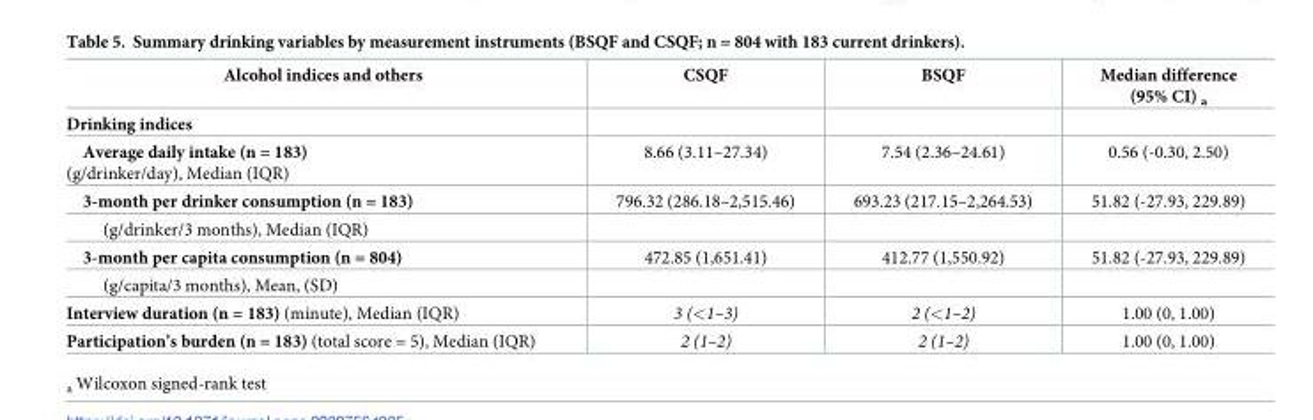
<table><thead><tr><td>Alcohol indices and others</td><td>CSQF</td><td>BSQF</td><td>Median difference (95% CI) <sub>a</sub></td></tr></thead><tbody><tr><td colspan="4">Drinking indices</td></tr><tr><td>Average daily intake (n = 183) (g/drinker/day), Median (IQR)</td><td>8.66 (3.11–27.34)</td><td>7.54 (2.36–24.61)</td><td>0.56 (-0.30, 2.50)</td></tr><tr><td>3-month per drinker consumption (n = 183)</td><td>796.32 (286.18–2,515.46)</td><td>693.23 (217.15–2,264.53)</td><td>51.82 (-27.93, 229.89)</td></tr><tr><td colspan="4">(g/drinker/3 months), Median (IQR)</td></tr><tr><td>3-month per capita consumption (n = 804)</td><td>472.85 (1,651.41)</td><td>412.77 (1,550.92)</td><td>51.82 (-27.93, 229.89)</td></tr><tr><td colspan="4">(g/capita/3 months), Mean, (SD)</td></tr><tr><td>Interview duration (n = 183) (minute), Median (IQR)</td><td>3 (&lt;1–3)</td><td>2 (&lt;1–2)</td><td>1.00 (0, 1.00)</td></tr><tr><td>Participation’s burden (n = 183) (total score = 5), Median (IQR)</td><td>2 (1–2)</td><td>2 (1–2)</td><td>1.00 (0, 1.00)</td></tr></tbody></table>